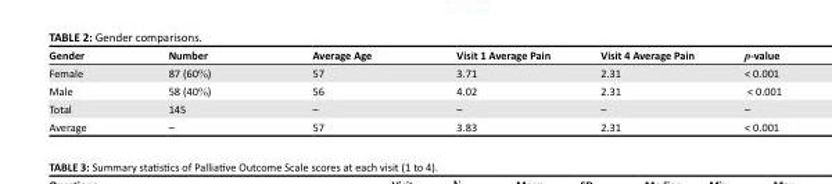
<table><thead><tr><td>Gender</td><td>Number</td><td>Average Age</td><td>Visit 1 Average Pain</td><td>Visit 4 Average Pain</td><td>p-value</td></tr></thead><tbody><tr><td>Female</td><td>87 (60%)</td><td>57</td><td>3.71</td><td>2.31</td><td>&lt; 0.001</td></tr><tr><td>Male</td><td>58 (40%)</td><td>56</td><td>4.02</td><td>2.31</td><td>&lt; 0.001</td></tr><tr><td>Total</td><td>145</td><td>–</td><td>–</td><td>–</td><td>–</td></tr><tr><td>Average</td><td>–</td><td>57</td><td>3.83</td><td>2.31</td><td>&lt; 0.001</td></tr></tbody></table>